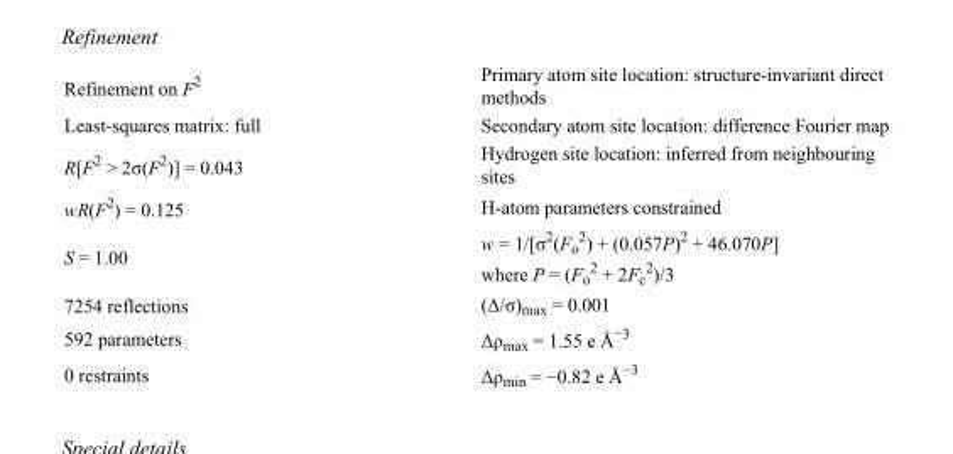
<table><tbody><tr><td>Refinement on F<sup>2</sup></td><td>Primary atom site location: structure-invariant direct methods</td></tr><tr><td>Least-squares matrix: full</td><td>Secondary atom site location: difference Fourier map</td></tr><tr><td>R[F<sup>2</sup> &gt; 2σ(F<sup>2</sup>)] = 0.043</td><td>Hydrogen site location: inferred from neighbouring sites</td></tr><tr><td>wR(F<sup>2</sup>) = 0.125</td><td>H-atom parameters constrained</td></tr><tr><td>S = 1.00</td><td>w = 1/[σ<sup>2</sup>(F<sub>o</sub> <sup>2</sup>) + (0.057P)<sup>2</sup> + 46.070P] where P = (F<sub>o</sub> <sup>2</sup> + 2F<sub>c</sub> <sup>2</sup>)/3</td></tr><tr><td>7254 reflections</td><td>(Δ/σ)<sub>max</sub> = 0.001</td></tr><tr><td>592 parameters</td><td>Δρ<sub>max</sub> = 1.55 e Å<sup>−3</sup></td></tr><tr><td>0 restraints</td><td>Δρ<sub>min</sub> = −0.82 e Å<sup>−3</sup></td></tr></tbody></table>